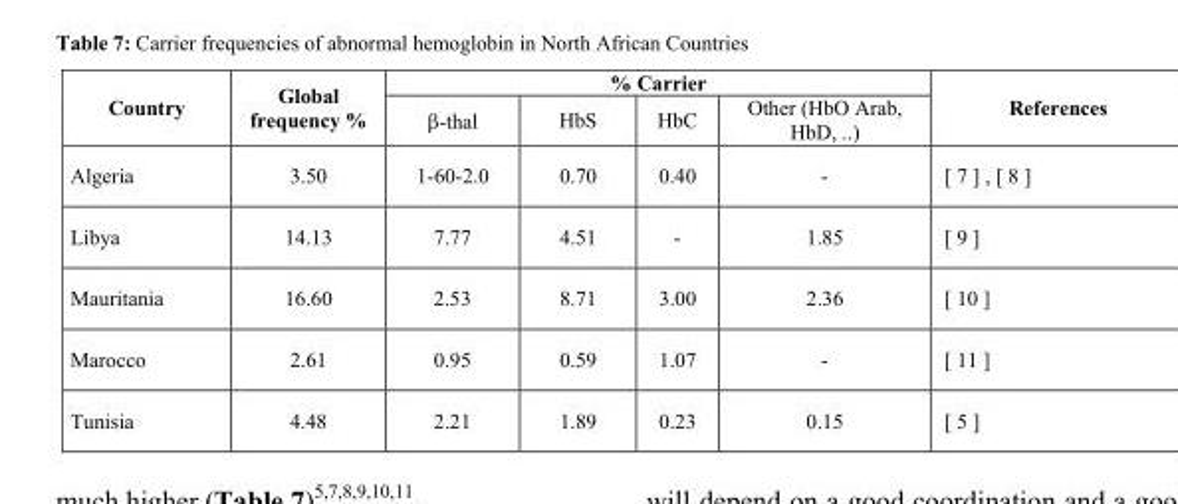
<table><thead><tr><td rowspan="2">Country</td><td rowspan="2">Global frequency %</td><td colspan="4">% Carrier</td><td rowspan="2">References</td></tr><tr><td>β-thal</td><td>HbS</td><td>HbC</td><td>Other (HbO Arab, HbD, ..)</td></tr></thead><tbody><tr><td>Algeria</td><td>3.50</td><td>1-60-2.0</td><td>0.70</td><td>0.40</td><td>-</td><td>[ 7 ] , [ 8 ]</td></tr><tr><td>Libya</td><td>14.13</td><td>7.77</td><td>4.51</td><td>-</td><td>1.85</td><td>[ 9 ]</td></tr><tr><td>Mauritania</td><td>16.60</td><td>2.53</td><td>8.71</td><td>3.00</td><td>2.36</td><td>[ 10 ]</td></tr><tr><td>Marocco</td><td>2.61</td><td>0.95</td><td>0.59</td><td>1.07</td><td>-</td><td>[ 11 ]</td></tr><tr><td>Tunisia</td><td>4.48</td><td>2.21</td><td>1.89</td><td>0.23</td><td>0.15</td><td>[ 5 ]</td></tr></tbody></table>